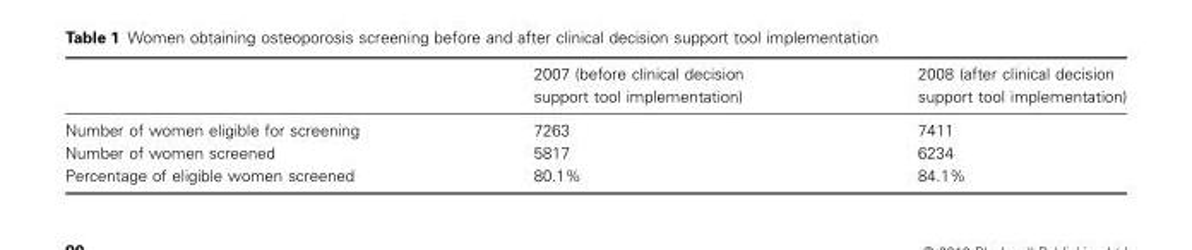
<table><thead><tr><td></td><td>2007 (before clinical decision support tool implementation)</td><td>2008 (after clinical decision support tool implementation)</td></tr></thead><tbody><tr><td>Number of women eligible for screening</td><td>7263</td><td>7411</td></tr><tr><td>Number of women screened</td><td>5817</td><td>6234</td></tr><tr><td>Percentage of eligible women screened</td><td>80.1%</td><td>84.1%</td></tr></tbody></table>